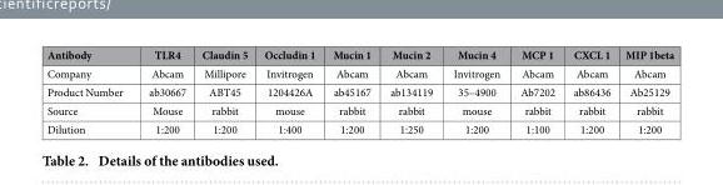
<table><thead><tr><td>Antibody</td><td>TLR4</td><td>Claudin 5</td><td>Occludin 1</td><td>Mucin 1</td><td>Mucin 2</td><td>Mucin 4</td><td>MCP 1</td><td>CXCL 1</td><td>MIP 1beta</td></tr></thead><tbody><tr><td>Company</td><td>Abcam</td><td>Millipore</td><td>Invitrogen</td><td>Abcam</td><td>Abcam</td><td>Invitrogen</td><td>Abcam</td><td>Abcam</td><td>Abcam</td></tr><tr><td>Product Number</td><td>ab30667</td><td>ABT45</td><td>1204426A</td><td>ab45167</td><td>ab134119</td><td>35–4900</td><td>Ab7202</td><td>ab86436</td><td>Ab25129</td></tr><tr><td>Source</td><td>Mouse</td><td>rabbit</td><td>mouse</td><td>rabbit</td><td>rabbit</td><td>mouse</td><td>rabbit</td><td>rabbit</td><td>rabbit</td></tr><tr><td>Dilution</td><td>1:200</td><td>1:200</td><td>1:400</td><td>1:200</td><td>1:250</td><td>1:200</td><td>1:100</td><td>1:200</td><td>1:200</td></tr></tbody></table>